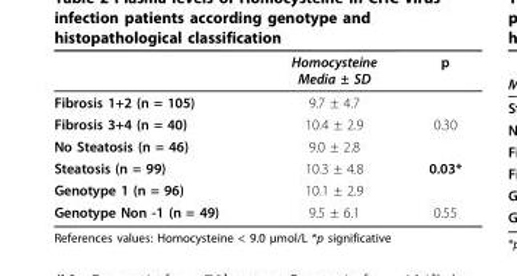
<table><thead><tr><td></td><td>Homocysteine Media ± SD</td><td>p</td></tr></thead><tbody><tr><td>Fibrosis 1+2 (n = 105)</td><td>9.7 ± 4.7</td><td></td></tr><tr><td>Fibrosis 3+4 (n = 40)</td><td>10.4 ± 2.9</td><td>0.30</td></tr><tr><td>No Steatosis (n = 46)</td><td>9.0 ± 2.8</td><td></td></tr><tr><td>Steatosis (n = 99)</td><td>10.3 ± 4.8</td><td>0.03*</td></tr><tr><td>Genotype 1 (n = 96)</td><td>10.1 ± 2.9</td><td></td></tr><tr><td>Genotype Non -1 (n = 49)</td><td>9.5 ± 6.1</td><td>0.55</td></tr></tbody></table>